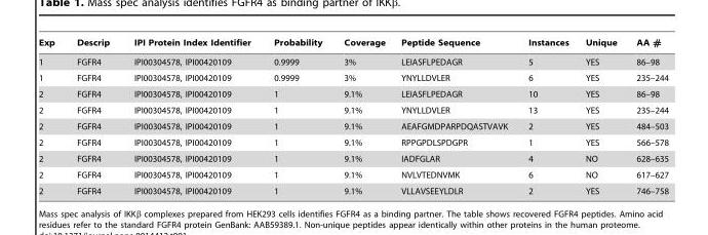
<table><thead><tr><td>Exp</td><td>Descrip</td><td>IPI Protein Index Identifier</td><td>Probability</td><td>Coverage</td><td>Peptide Sequence</td><td>Instances</td><td>Unique</td><td>AA #</td></tr></thead><tbody><tr><td>1</td><td>FGFR4</td><td>IPI00304578, IPI00420109</td><td>0.9999</td><td>3%</td><td>LEIASFLPEDAGR</td><td>5</td><td>YES</td><td>86–98</td></tr><tr><td>1</td><td>FGFR4</td><td>IPI00304578, IPI00420109</td><td>0.9999</td><td>3%</td><td>YNYLLDVLER</td><td>6</td><td>YES</td><td>235–244</td></tr><tr><td>2</td><td>FGFR4</td><td>IPI00304578, IPI00420109</td><td>1</td><td>9.1%</td><td>LEIASFLPEDAGR</td><td>10</td><td>YES</td><td>86–98</td></tr><tr><td>2</td><td>FGFR4</td><td>IPI00304578, IPI00420109</td><td>1</td><td>9.1%</td><td>YNYLLDVLER</td><td>13</td><td>YES</td><td>235–244</td></tr><tr><td>2</td><td>FGFR4</td><td>IPI00304578, IPI00420109</td><td>1</td><td>9.1%</td><td>AEAFGMDPARPDQASTVAVK</td><td>2</td><td>YES</td><td>484–503</td></tr><tr><td>2</td><td>FGFR4</td><td>IPI00304578, IPI00420109</td><td>1</td><td>9.1%</td><td>RPPGPDLSPDGPR</td><td>1</td><td>YES</td><td>566–578</td></tr><tr><td>2</td><td>FGFR4</td><td>IPI00304578, IPI00420109</td><td>1</td><td>9.1%</td><td>IADFGLAR</td><td>4</td><td>NO</td><td>628–635</td></tr><tr><td>2</td><td>FGFR4</td><td>IPI00304578, IPI00420109</td><td>1</td><td>9.1%</td><td>NVLVTEDNVMK</td><td>6</td><td>NO</td><td>617–627</td></tr><tr><td>2</td><td>FGFR4</td><td>IPI00304578, IPI00420109</td><td>1</td><td>9.1%</td><td>VLLAVSEEYLDLR</td><td>2</td><td>YES</td><td>746–758</td></tr></tbody></table>